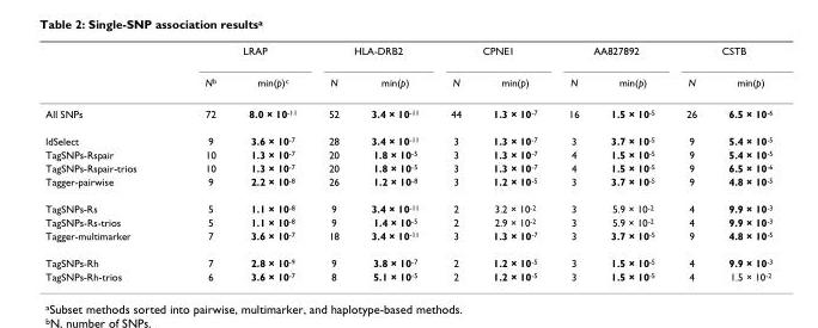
<table><thead><tr><td rowspan="2"></td><td colspan="2">LRAP</td><td colspan="2">HLA-DRB2</td><td colspan="2">CPNE1</td><td colspan="2">AA827892</td><td colspan="2">CSTB</td></tr><tr><td>N<sup>b</sup></td><td>min(p)<sup>c</sup></td><td>N</td><td>min(p)</td><td>N</td><td>min(p)</td><td>N</td><td>min(p)</td><td>N</td><td>min(p)</td></tr></thead><tbody><tr><td>All SNPs</td><td>72</td><td>8.0 × 10<sup>-11</sup></td><td>52</td><td>3.4 × 10<sup>-11</sup></td><td>44</td><td>1.3 × 10<sup>-7</sup></td><td>16</td><td>1.5 × 10<sup>-5</sup></td><td>26</td><td>6.5 × 10<sup>-6</sup></td></tr><tr><td>ldSelect</td><td>9</td><td>3.6 × 10<sup>-7</sup></td><td>28</td><td>3.4 × 10<sup>-11</sup></td><td>3</td><td>1.3 × 10<sup>-7</sup></td><td>3</td><td>3.7 × 10<sup>-5</sup></td><td>9</td><td>5.4 × 10<sup>-5</sup></td></tr><tr><td>TagSNPs-Rspair</td><td>10</td><td>1.3 × 10<sup>-7</sup></td><td>20</td><td>1.8 × 10<sup>-5</sup></td><td>3</td><td>1.3 × 10<sup>-7</sup></td><td>4</td><td>1.5 × 10<sup>-5</sup></td><td>9</td><td>5.4 × 10<sup>-5</sup></td></tr><tr><td>TagSNPs-Rspair-trios</td><td>10</td><td>1.3 × 10<sup>-7</sup></td><td>20</td><td>1.8 × 10<sup>-5</sup></td><td>3</td><td>1.3 × 10<sup>-7</sup></td><td>4</td><td>1.5 × 10<sup>-5</sup></td><td>9</td><td>6.5 × 10<sup>-6</sup></td></tr><tr><td>Tagger-pairwise</td><td>9</td><td>2.2 × 10<sup>-8</sup></td><td>26</td><td>1.2 × 10<sup>-8</sup></td><td>3</td><td>1.2 × 10<sup>-5</sup></td><td>3</td><td>3.7 × 10<sup>-5</sup></td><td>9</td><td>4.8 × 10<sup>-5</sup></td></tr><tr><td>TagSNPs-Rs</td><td>5</td><td>1.1 × 10<sup>-8</sup></td><td>9</td><td>3.4 × 10<sup>-11</sup></td><td>2</td><td>3.2 × 10<sup>-2</sup></td><td>3</td><td>5.9 × 10<sup>-2</sup></td><td>4</td><td>9.9 × 10<sup>-3</sup></td></tr><tr><td>TagSNPs-Rs-trios</td><td>5</td><td>1.1 × 10<sup>-8</sup></td><td>9</td><td>1.4 × 10<sup>-5</sup></td><td>2</td><td>2.9 × 10<sup>-2</sup></td><td>3</td><td>5.9 × 10<sup>-2</sup></td><td>4</td><td>9.9 × 10<sup>-3</sup></td></tr><tr><td>Tagger-multimarker</td><td>7</td><td>3.6 × 10<sup>-7</sup></td><td>18</td><td>3.4 × 10<sup>-11</sup></td><td>3</td><td>1.3 × 10<sup>-7</sup></td><td>3</td><td>3.7 × 10<sup>-5</sup></td><td>9</td><td>4.8 × 10<sup>-5</sup></td></tr><tr><td>TagSNPs-Rh</td><td>7</td><td>2.8 × 10<sup>-9</sup></td><td>9</td><td>3.8 × 10<sup>-7</sup></td><td>2</td><td>1.2 × 10<sup>-5</sup></td><td>3</td><td>1.5 × 10<sup>-5</sup></td><td>4</td><td>9.9 × 10<sup>-3</sup></td></tr><tr><td>TagSNPs-Rh-trios</td><td>6</td><td>3.6 × 10<sup>-7</sup></td><td>8</td><td>5.1 × 10<sup>-5</sup></td><td>2</td><td>1.2 × 10<sup>-5</sup></td><td>3</td><td>1.5 × 10<sup>-5</sup></td><td>4</td><td>1.5 × 10<sup>-2</sup></td></tr></tbody></table>